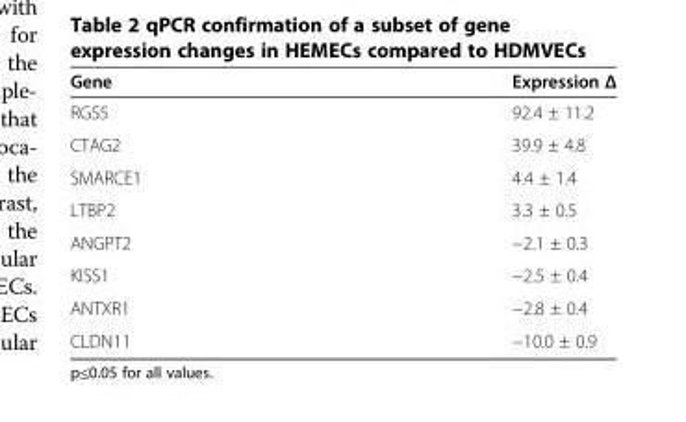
<table><thead><tr><td>Gene</td><td>Expression Δ</td></tr></thead><tbody><tr><td>RGS5</td><td>92.4 ± 11.2</td></tr><tr><td>CTAG2</td><td>39.9 ± 4.8</td></tr><tr><td>SMARCE1</td><td>4.4 ± 1.4</td></tr><tr><td>LTBP2</td><td>3.3 ± 0.5</td></tr><tr><td>ANGPT2</td><td>−2.1 ± 0.3</td></tr><tr><td>KISS1</td><td>−2.5 ± 0.4</td></tr><tr><td>ANTXR1</td><td>−2.8 ± 0.4</td></tr><tr><td>CLDN11</td><td>−10.0 ± 0.9</td></tr></tbody></table>